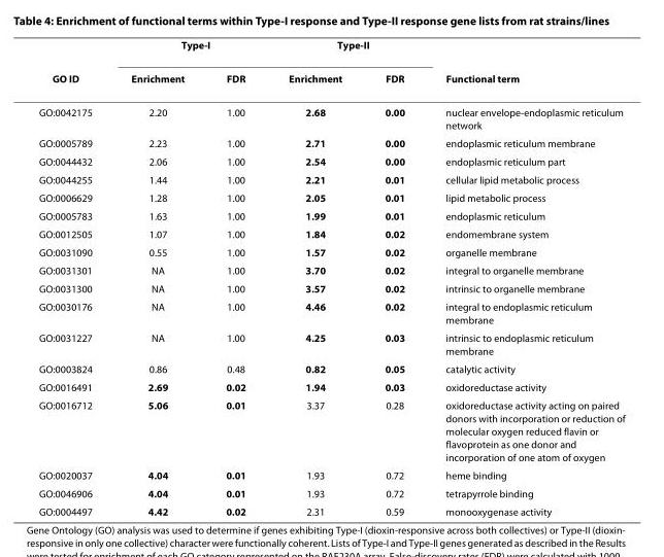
<table><thead><tr><td rowspan="2">GO ID</td><td colspan="2">Type-I</td><td colspan="2">Type-II</td><td rowspan="2">Functional term</td></tr><tr><td>Enrichment</td><td>FDR</td><td>Enrichment</td><td>FDR</td></tr></thead><tbody><tr><td>GO:0042175</td><td>2.20</td><td>1.00</td><td>2.68</td><td>0.00</td><td>nuclear envelope-endoplasmic reticulum network</td></tr><tr><td>GO:0005789</td><td>2.23</td><td>1.00</td><td>2.71</td><td>0.00</td><td>endoplasmic reticulum membrane</td></tr><tr><td>GO:0044432</td><td>2.06</td><td>1.00</td><td>2.54</td><td>0.00</td><td>endoplasmic reticulum part</td></tr><tr><td>GO:0044255</td><td>1.44</td><td>1.00</td><td>2.21</td><td>0.01</td><td>cellular lipid metabolic process</td></tr><tr><td>GO:0006629</td><td>1.28</td><td>1.00</td><td>2.05</td><td>0.01</td><td>lipid metabolic process</td></tr><tr><td>GO:0005783</td><td>1.63</td><td>1.00</td><td>1.99</td><td>0.01</td><td>endoplasmic reticulum</td></tr><tr><td>GO:0012505</td><td>1.07</td><td>1.00</td><td>1.84</td><td>0.02</td><td>endomembrane system</td></tr><tr><td>GO:0031090</td><td>0.55</td><td>1.00</td><td>1.57</td><td>0.02</td><td>organelle membrane</td></tr><tr><td>GO:0031301</td><td>NA</td><td>1.00</td><td>3.70</td><td>0.02</td><td>integral to organelle membrane</td></tr><tr><td>GO:0031300</td><td>NA</td><td>1.00</td><td>3.57</td><td>0.02</td><td>intrinsic to organelle membrane</td></tr><tr><td>GO:0030176</td><td>NA</td><td>1.00</td><td>4.46</td><td>0.02</td><td>integral to endoplasmic reticulum membrane</td></tr><tr><td>GO:0031227</td><td>NA</td><td>1.00</td><td>4.25</td><td>0.03</td><td>intrinsic to endoplasmic reticulum membrane</td></tr><tr><td>GO:0003824</td><td>0.86</td><td>0.48</td><td>0.82</td><td>0.05</td><td>catalytic activity</td></tr><tr><td>GO:0016491</td><td>2.69</td><td>0.02</td><td>1.94</td><td>0.03</td><td>oxidoreductase activity</td></tr><tr><td>GO:0016712</td><td>5.06</td><td>0.01</td><td>3.37</td><td>0.28</td><td>oxidoreductase activity acting on paired donors with incorporation or reduction of molecular oxygen reduced flavin or flavoprotein as one donor and incorporation of one atom of oxygen</td></tr><tr><td>GO:0020037</td><td>4.04</td><td>0.01</td><td>1.93</td><td>0.72</td><td>heme binding</td></tr><tr><td>GO:0046906</td><td>4.04</td><td>0.01</td><td>1.93</td><td>0.72</td><td>tetrapyrrole binding</td></tr><tr><td>GO:0004497</td><td>4.42</td><td>0.02</td><td>2.31</td><td>0.59</td><td>monooxygenase activity</td></tr></tbody></table>